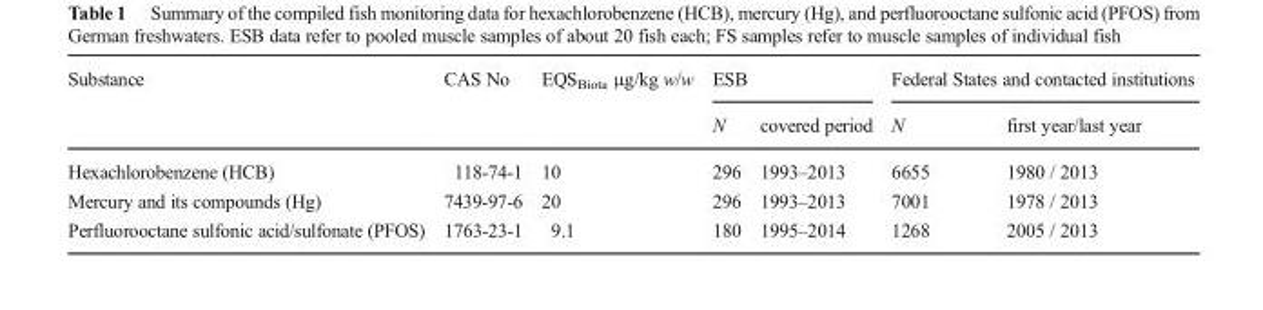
<table><thead><tr><td rowspan="2">Substance</td><td rowspan="2">CAS No</td><td rowspan="2">EQS<sub>Biota</sub> μg/kg w/w</td><td colspan="2">ESB</td><td colspan="2">Federal States and contacted institutions</td></tr><tr><td>N</td><td>covered period</td><td>N</td><td>first year/last year</td></tr></thead><tbody><tr><td>Hexachlorobenzene (HCB)</td><td>118-74-1</td><td>10</td><td>296</td><td>1993–2013</td><td>6655</td><td>1980 / 2013</td></tr><tr><td>Mercury and its compounds (Hg)</td><td>7439-97-6</td><td>20</td><td>296</td><td>1993–2013</td><td>7001</td><td>1978 / 2013</td></tr><tr><td>Perfluorooctane sulfonic acid/sulfonate (PFOS)</td><td>1763-23-1</td><td>9.1</td><td>180</td><td>1995–2014</td><td>1268</td><td>2005 / 2013</td></tr></tbody></table>